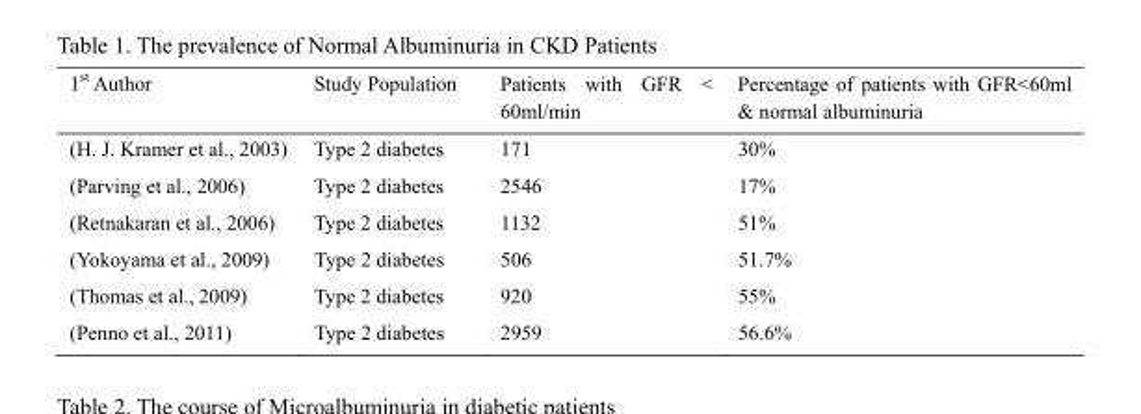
<table><thead><tr><td>1<sup>st</sup> Author</td><td>Study Population</td><td>Patients with GFR &lt; 60ml/min</td><td>Percentage of patients with GFR&lt;60ml &amp; normal albuminuria</td></tr></thead><tbody><tr><td>(H. J. Kramer et al., 2003)</td><td>Type 2 diabetes</td><td>171</td><td>30%</td></tr><tr><td>(Parving et al., 2006)</td><td>Type 2 diabetes</td><td>2546</td><td>17%</td></tr><tr><td>(Retnakaran et al., 2006)</td><td>Type 2 diabetes</td><td>1132</td><td>51%</td></tr><tr><td>(Yokoyama et al., 2009)</td><td>Type 2 diabetes</td><td>506</td><td>51.7%</td></tr><tr><td>(Thomas et al., 2009)</td><td>Type 2 diabetes</td><td>920</td><td>55%</td></tr><tr><td>(Penno et al., 2011)</td><td>Type 2 diabetes</td><td>2959</td><td>56.6%</td></tr></tbody></table>